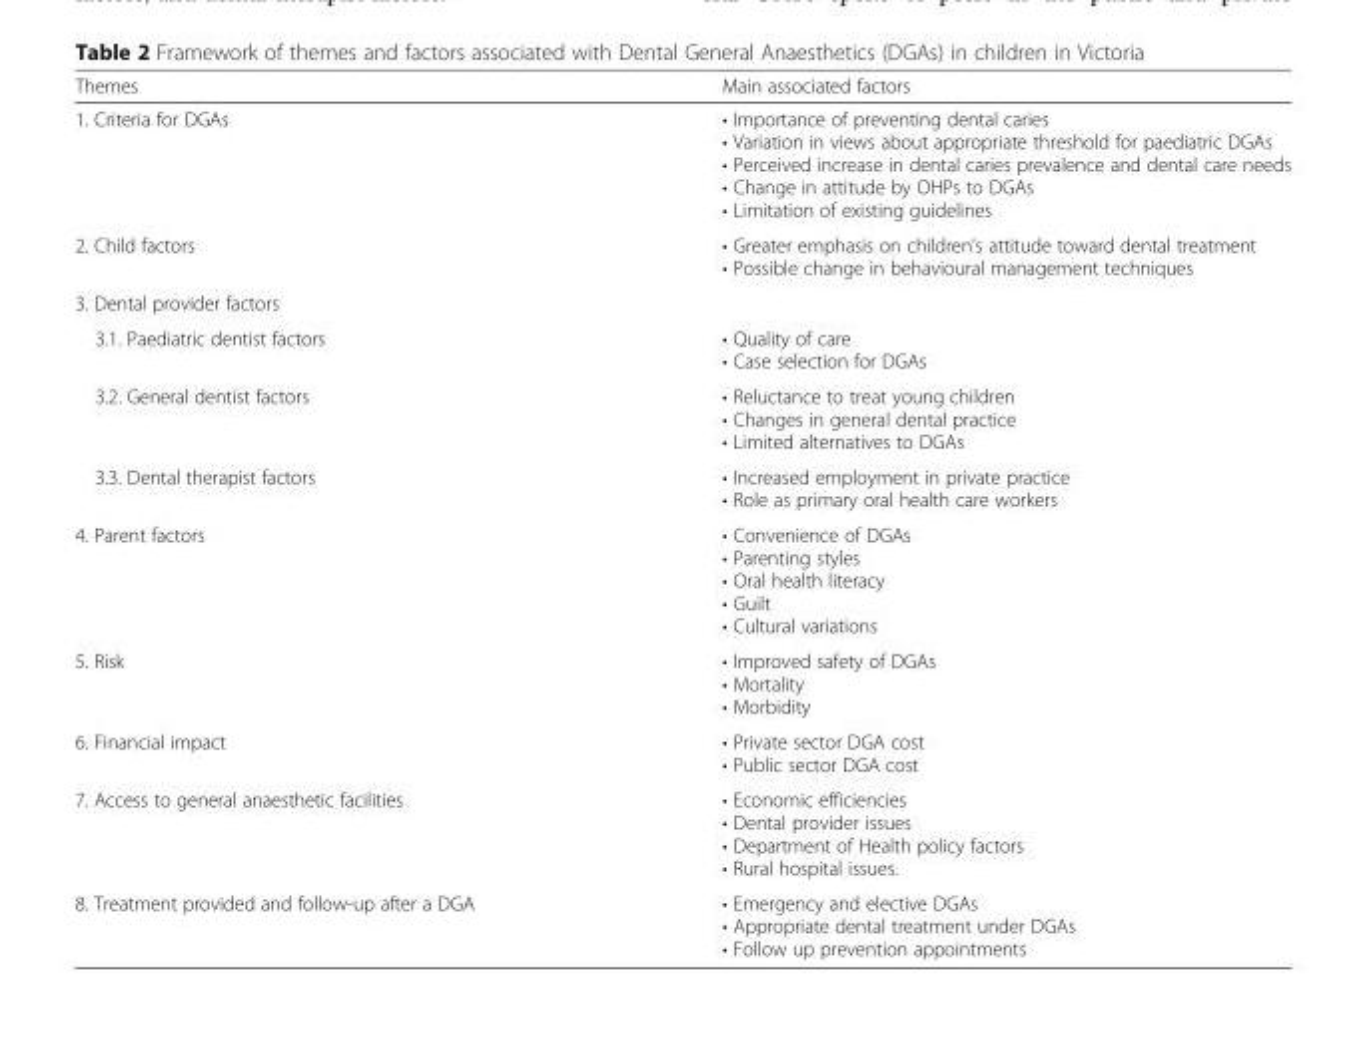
<table><thead><tr><td>Themes</td><td>Main associated factors</td></tr></thead><tbody><tr><td>1. Criteria for DGAs</td><td>• Importance of preventing dental caries • Variation in views about appropriate threshold for paediatric DGAs • Perceived increase in dental caries prevalence and dental care needs • Change in attitude by OHPs to DGAs • Limitation of existing guidelines</td></tr><tr><td>2. Child factors</td><td>• Greater emphasis on children’s attitude toward dental treatment • Possible change in behavioural management techniques</td></tr><tr><td colspan="2">3. Dental provider factors</td></tr><tr><td>3.1. Paediatric dentist factors</td><td>• Quality of care • Case selection for DGAs</td></tr><tr><td>3.2. General dentist factors</td><td>• Reluctance to treat young children • Changes in general dental practice • Limited alternatives to DGAs</td></tr><tr><td>3.3. Dental therapist factors</td><td>• Increased employment in private practice • Role as primary oral health care workers</td></tr><tr><td>4. Parent factors</td><td>• Convenience of DGAs • Parenting styles • Oral health literacy • Guilt • Cultural variations</td></tr><tr><td>5. Risk</td><td>• Improved safety of DGAs • Mortality • Morbidity</td></tr><tr><td>6. Financial impact</td><td>• Private sector DGA cost • Public sector DGA cost</td></tr><tr><td>7. Access to general anaesthetic facilities</td><td>• Economic efficiencies • Dental provider issues • Department of Health policy factors • Rural hospital issues.</td></tr><tr><td>8. Treatment provided and follow-up after a DGA</td><td>• Emergency and elective DGAs • Appropriate dental treatment under DGAs • Follow up prevention appointments</td></tr></tbody></table>